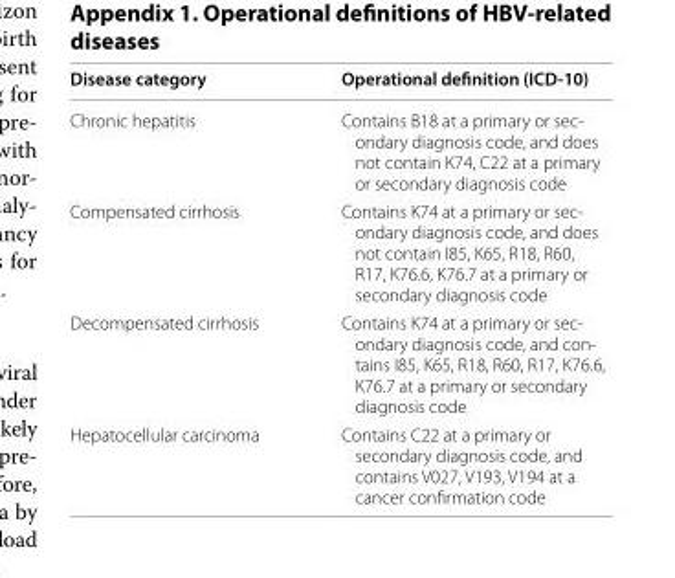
<table><thead><tr><td>Disease category</td><td>Operational definition (ICD-10)</td></tr></thead><tbody><tr><td>Chronic hepatitis</td><td>Contains B18 at a primary or sec‑ ondary diagnosis code, and does not contain K74, C22 at a primary or secondary diagnosis code</td></tr><tr><td>Compensated cirrhosis</td><td>Contains K74 at a primary or sec‑ ondary diagnosis code, and does not contain I85, K65, R18, R60, R17, K76.6, K76.7 at a primary or secondary diagnosis code</td></tr><tr><td>Decompensated cirrhosis</td><td>Contains K74 at a primary or sec‑ ondary diagnosis code, and con‑ tains I85, K65, R18, R60, R17, K76.6, K76.7 at a primary or secondary diagnosis code</td></tr><tr><td>Hepatocellular carcinoma</td><td>Contains C22 at a primary or secondary diagnosis code, and contains V027, V193, V194 at a cancer confirmation code</td></tr></tbody></table>